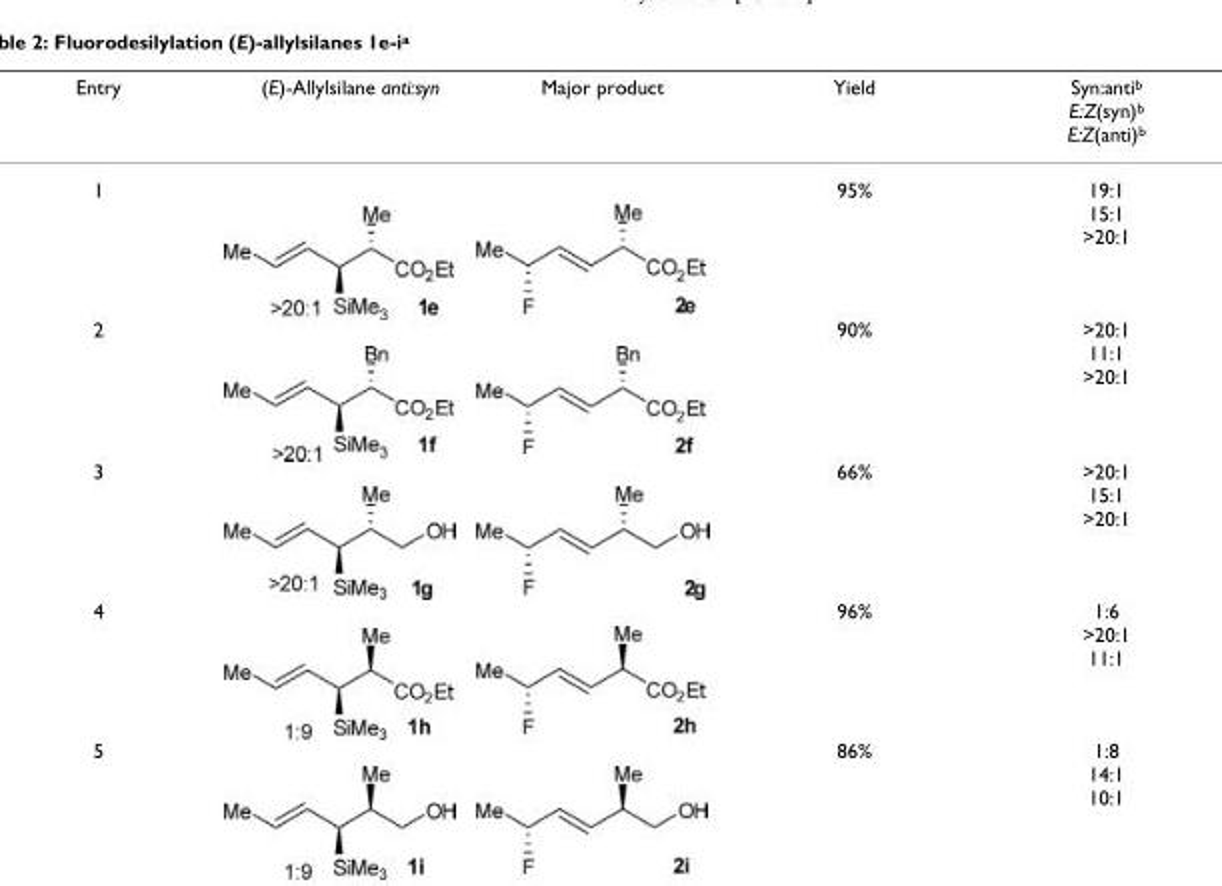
<table><thead><tr><td>Entry</td><td>(E)-Allylsilane anti:syn</td><td>Major product</td><td>Yield</td><td>Syn:anti<sup>b</sup> E:Z(syn)<sup>b</sup> E:Z(anti)<sup>b</sup></td></tr></thead><tbody><tr><td>1</td><td></td><td></td><td>95%</td><td>19:1 15:1 &gt;20:1</td></tr><tr><td>2</td><td></td><td></td><td>90%</td><td>&gt;20:1 11:1 &gt;20:1</td></tr><tr><td>3</td><td></td><td></td><td>66%</td><td>&gt;20:1 15:1 &gt;20:1</td></tr><tr><td>4</td><td></td><td></td><td>96%</td><td>1:6 &gt;20:1 11:1</td></tr><tr><td>5</td><td></td><td></td><td>86%</td><td>1:8 14:1 10:1</td></tr></tbody></table>